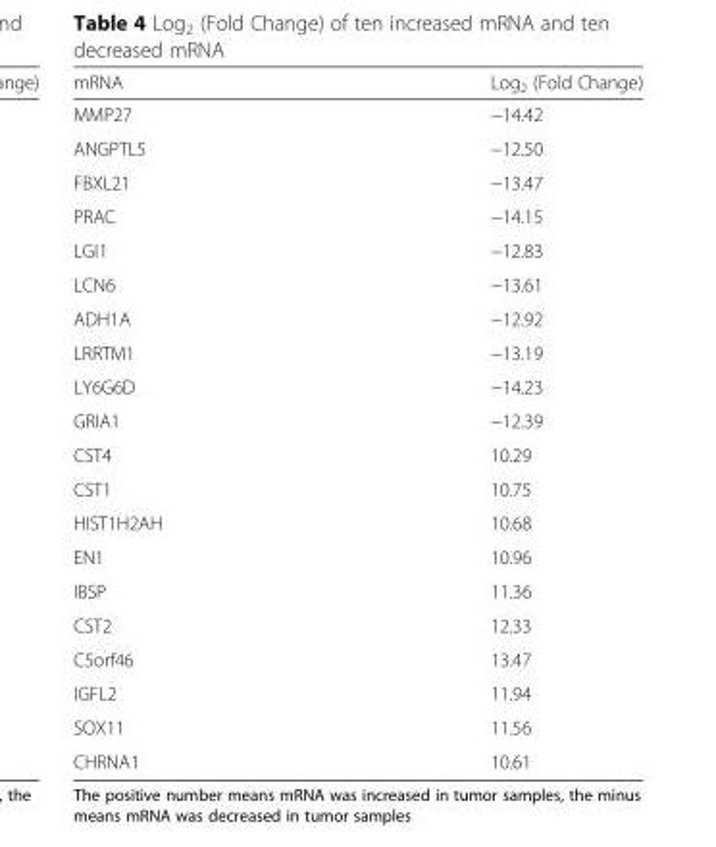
<table><thead><tr><td>mRNA</td><td>Log<sub>2</sub> (Fold Change)</td></tr></thead><tbody><tr><td>MMP27</td><td>−14.42</td></tr><tr><td>ANGPTL5</td><td>−12.50</td></tr><tr><td>FBXL21</td><td>−13.47</td></tr><tr><td>PRAC</td><td>−14.15</td></tr><tr><td>LGI1</td><td>−12.83</td></tr><tr><td>LCN6</td><td>−13.61</td></tr><tr><td>ADH1A</td><td>−12.92</td></tr><tr><td>LRRTM1</td><td>−13.19</td></tr><tr><td>LY6G6D</td><td>−14.23</td></tr><tr><td>GRIA1</td><td>−12.39</td></tr><tr><td>CST4</td><td>10.29</td></tr><tr><td>CST1</td><td>10.75</td></tr><tr><td>HIST1H2AH</td><td>10.68</td></tr><tr><td>EN1</td><td>10.96</td></tr><tr><td>IBSP</td><td>11.36</td></tr><tr><td>CST2</td><td>12.33</td></tr><tr><td>C5orf46</td><td>13.47</td></tr><tr><td>IGFL2</td><td>11.94</td></tr><tr><td>SOX11</td><td>11.56</td></tr><tr><td>CHRNA1</td><td>10.61</td></tr></tbody></table>